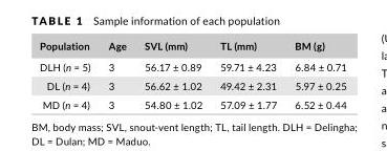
<table><thead><tr><td>Population</td><td>Age</td><td>SVL (mm)</td><td>TL (mm)</td><td>BM (g)</td></tr></thead><tbody><tr><td>DLH (n = 5)</td><td>3</td><td>56.17 ± 0.89</td><td>59.71 ± 4.23</td><td>6.84 ± 0.71</td></tr><tr><td>DL (n = 4)</td><td>3</td><td>56.62 ± 1.02</td><td>49.42 ± 2.31</td><td>5.97 ± 0.25</td></tr><tr><td>MD (n = 4)</td><td>3</td><td>54.80 ± 1.02</td><td>57.09 ± 1.77</td><td>6.52 ± 0.44</td></tr></tbody></table>